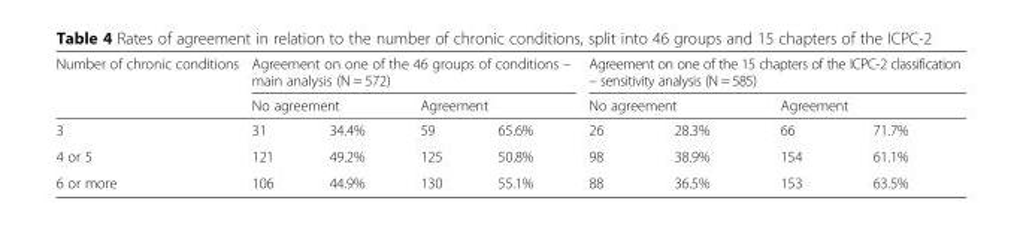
<table><thead><tr><td rowspan="3">Number of chronic conditions 3</td><td colspan="4">Agreement on one of the 46 groups of conditions – main analysis (N = 572)</td><td colspan="4">Agreement on one of the 15 chapters of the ICPC-2 classification – sensitivity analysis (N = 585)</td></tr><tr><td colspan="2">No agreement</td><td colspan="2">Agreement</td><td colspan="2">No agreement</td><td colspan="2">Agreement</td></tr><tr><td>31</td><td>34.4%</td><td>59</td><td>65.6%</td><td>26</td><td>28.3%</td><td>66</td><td>71.7%</td></tr></thead><tbody><tr><td>4 or 5</td><td>121</td><td>49.2%</td><td>125</td><td>50.8%</td><td>98</td><td>38.9%</td><td>154</td><td>61.1%</td></tr><tr><td>6 or more</td><td>106</td><td>44.9%</td><td>130</td><td>55.1%</td><td>88</td><td>36.5%</td><td>153</td><td>63.5%</td></tr></tbody></table>